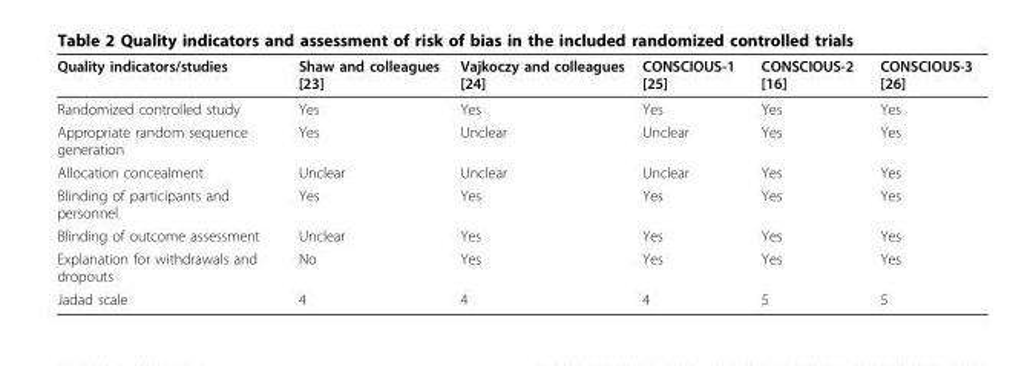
<table><thead><tr><td>Quality indicators/studies</td><td>Shaw and colleagues [23]</td><td>Vajkoczy and colleagues [24]</td><td>CONSCIOUS-1 [25]</td><td>CONSCIOUS-2 [16]</td><td>CONSCIOUS-3 [26]</td></tr></thead><tbody><tr><td>Randomized controlled study</td><td>Yes</td><td>Yes</td><td>Yes</td><td>Yes</td><td>Yes</td></tr><tr><td>Appropriate random sequence generation</td><td>Yes</td><td>Unclear</td><td>Unclear</td><td>Yes</td><td>Yes</td></tr><tr><td>Allocation concealment</td><td>Unclear</td><td>Unclear</td><td>Unclear</td><td>Yes</td><td>Yes</td></tr><tr><td>Blinding of participants and personnel</td><td>Yes</td><td>Yes</td><td>Yes</td><td>Yes</td><td>Yes</td></tr><tr><td>Blinding of outcome assessment</td><td>Unclear</td><td>Yes</td><td>Yes</td><td>Yes</td><td>Yes</td></tr><tr><td>Explanation for withdrawals and dropouts</td><td>No</td><td>Yes</td><td>Yes</td><td>Yes</td><td>Yes</td></tr><tr><td>Jadad scale</td><td>4</td><td>4</td><td>4</td><td>5</td><td>5</td></tr></tbody></table>